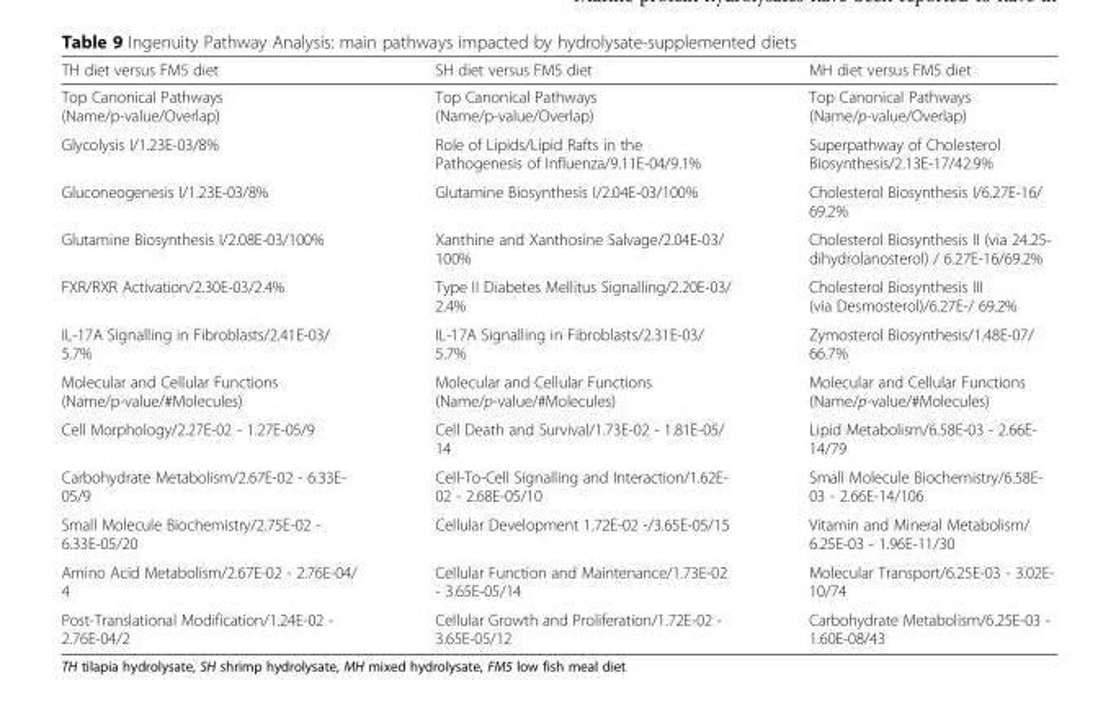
<table><thead><tr><td>TH diet versus FM5 diet</td><td>SH diet versus FM5 diet</td><td>MH diet versus FM5 diet</td></tr></thead><tbody><tr><td>Top Canonical Pathways (Name/p-value/Overlap)</td><td>Top Canonical Pathways (Name/p-value/Overlap)</td><td>Top Canonical Pathways (Name/p-value/Overlap)</td></tr><tr><td>Glycolysis I/1.23E-03/8%</td><td>Role of Lipids/Lipid Rafts in the Pathogenesis of Influenza/9.11E-04/9.1%</td><td>Superpathway of Cholesterol Biosynthesis/2.13E-17/42.9%</td></tr><tr><td>Gluconeogenesis I/1.23E-03/8%</td><td>Glutamine Biosynthesis I/2.04E-03/100%</td><td>Cholesterol Biosynthesis I/6.27E-16/ 69.2%</td></tr><tr><td>Glutamine Biosynthesis I/2.08E-03/100%</td><td>Xanthine and Xanthosine Salvage/2.04E-03/ 100%</td><td>Cholesterol Biosynthesis II (via 24.25- dihydrolanosterol) / 6.27E-16/69.2%</td></tr><tr><td>FXR/RXR Activation/2.30E-03/2.4%</td><td>Type II Diabetes Mellitus Signalling/2.20E-03/ 2.4%</td><td>Cholesterol Biosynthesis III (via Desmosterol)/6.27E-/ 69.2%</td></tr><tr><td>IL-17A Signalling in Fibroblasts/2.41E-03/ 5.7%</td><td>IL-17A Signalling in Fibroblasts/2.31E-03/ 5.7%</td><td>Zymosterol Biosynthesis/1.48E-07/ 66.7%</td></tr><tr><td>Molecular and Cellular Functions (Name/p-value/#Molecules)</td><td>Molecular and Cellular Functions (Name/p-value/#Molecules)</td><td>Molecular and Cellular Functions (Name/p-value/#Molecules)</td></tr><tr><td>Cell Morphology/2.27E-02 - 1.27E-05/9</td><td>Cell Death and Survival/1.73E-02 - 1.81E-05/ 14</td><td>Lipid Metabolism/6.58E-03 - 2.66E- 14/79</td></tr><tr><td>Carbohydrate Metabolism/2.67E-02 - 6.33E- 05/9</td><td>Cell-To-Cell Signalling and Interaction/1.62E- 02 - 2.68E-05/10</td><td>Small Molecule Biochemistry/6.58E- 03 - 2.66E-14/106</td></tr><tr><td>Small Molecule Biochemistry/2.75E-02 - 6.33E-05/20</td><td>Cellular Development 1.72E-02 -/3.65E-05/15</td><td>Vitamin and Mineral Metabolism/ 6.25E-03 - 1.96E-11/30</td></tr><tr><td>Amino Acid Metabolism/2.67E-02 - 2.76E-04/ 4</td><td>Cellular Function and Maintenance/1.73E-02 - 3.65E-05/14</td><td>Molecular Transport/6.25E-03 - 3.02E- 10/74</td></tr><tr><td>Post-Translational Modification/1.24E-02 - 2.76E-04/2</td><td>Cellular Growth and Proliferation/1.72E-02 - 3.65E-05/12</td><td>Carbohydrate Metabolism/6.25E-03 - 1.60E-08/43</td></tr></tbody></table>